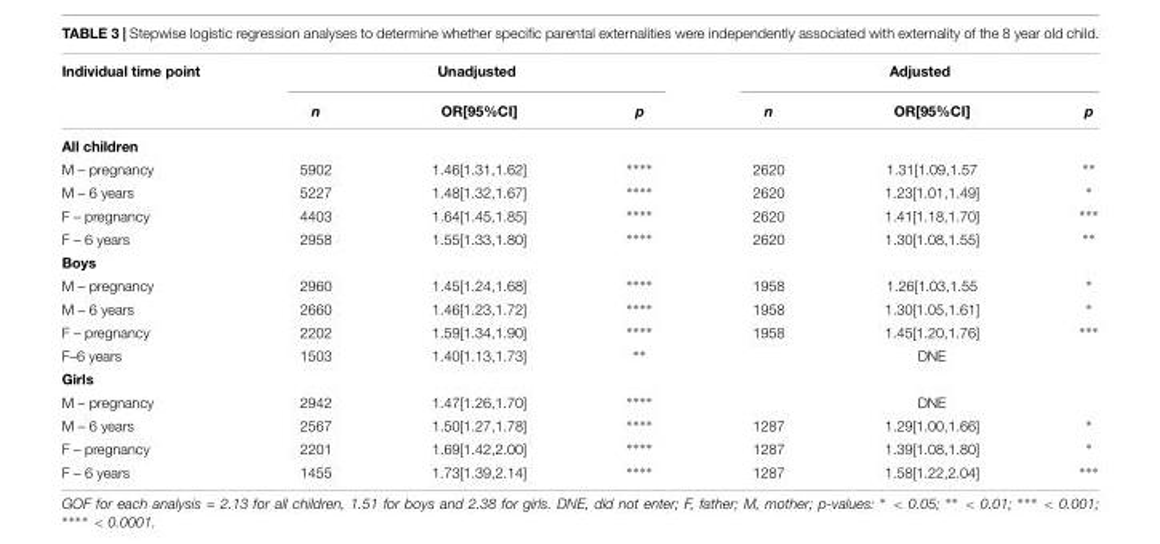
<table><thead><tr><td rowspan="2">Individual time point</td><td colspan="3">Unadjusted</td><td colspan="3">Adjusted</td></tr><tr><td>n</td><td>OR[95%CI]</td><td>p</td><td>n</td><td>OR[95%CI]</td><td>p</td></tr></thead><tbody><tr><td colspan="7">All children</td></tr><tr><td>M – pregnancy</td><td>5902</td><td>1.46[1.31,1.62]</td><td>∗∗∗∗</td><td>2620</td><td>1.31[1.09,1.57</td><td>∗∗</td></tr><tr><td>M – 6 years</td><td>5227</td><td>1.48[1.32,1.67]</td><td>∗∗∗∗</td><td>2620</td><td>1.23[1.01,1.49]</td><td>∗</td></tr><tr><td>F – pregnancy</td><td>4403</td><td>1.64[1.45,1.85]</td><td>∗∗∗∗</td><td>2620</td><td>1.41[1.18,1.70]</td><td>∗∗∗</td></tr><tr><td>F – 6 years</td><td>2958</td><td>1.55[1.33,1.80]</td><td>∗∗∗∗</td><td>2620</td><td>1.30[1.08,1.55]</td><td>∗∗</td></tr><tr><td colspan="7">Boys</td></tr><tr><td>M – pregnancy</td><td>2960</td><td>1.45[1.24,1.68]</td><td>∗∗∗∗</td><td>1958</td><td>1.26[1.03,1.55</td><td>∗</td></tr><tr><td>M – 6 years</td><td>2660</td><td>1.46[1.23,1.72]</td><td>∗∗∗∗</td><td>1958</td><td>1.30[1.05,1.61]</td><td>∗</td></tr><tr><td>F – pregnancy</td><td>2202</td><td>1.59[1.34,1.90]</td><td>∗∗∗∗</td><td>1958</td><td>1.45[1.20,1.76]</td><td>∗∗∗</td></tr><tr><td>F–6 years</td><td>1503</td><td>1.40[1.13,1.73]</td><td>∗∗</td><td></td><td>DNE</td><td></td></tr><tr><td colspan="7">Girls</td></tr><tr><td>M – pregnancy</td><td>2942</td><td>1.47[1.26,1.70]</td><td>∗∗∗∗</td><td></td><td>DNE</td><td></td></tr><tr><td>M – 6 years</td><td>2567</td><td>1.50[1.27,1.78]</td><td>∗∗∗∗</td><td>1287</td><td>1.29[1.00,1.66]</td><td>∗</td></tr><tr><td>F – pregnancy</td><td>2201</td><td>1.69[1.42,2.00]</td><td>∗∗∗∗</td><td>1287</td><td>1.39[1.08,1.80]</td><td>∗</td></tr><tr><td>F – 6 years</td><td>1455</td><td>1.73[1.39,2.14]</td><td>∗∗∗∗</td><td>1287</td><td>1.58[1.22,2.04]</td><td>∗∗∗</td></tr></tbody></table>